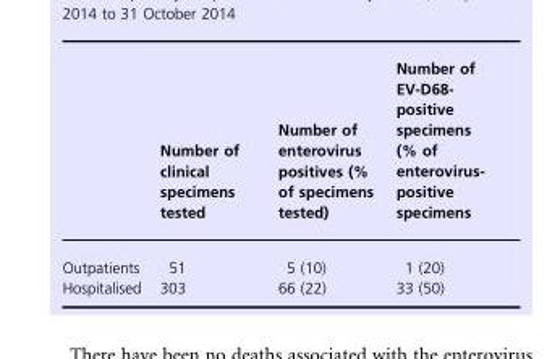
<table><thead><tr><td></td><td>Number of clinical specimens tested</td><td>Number of enterovirus positives (% of specimens tested)</td><td>Number of EV-D68- positive specimens (% of enterovirus- positive specimens</td></tr></thead><tbody><tr><td>Outpatients</td><td>51</td><td>5 (10)</td><td>1 (20)</td></tr><tr><td>Hospitalised</td><td>303</td><td>66 (22)</td><td>33 (50)</td></tr></tbody></table>